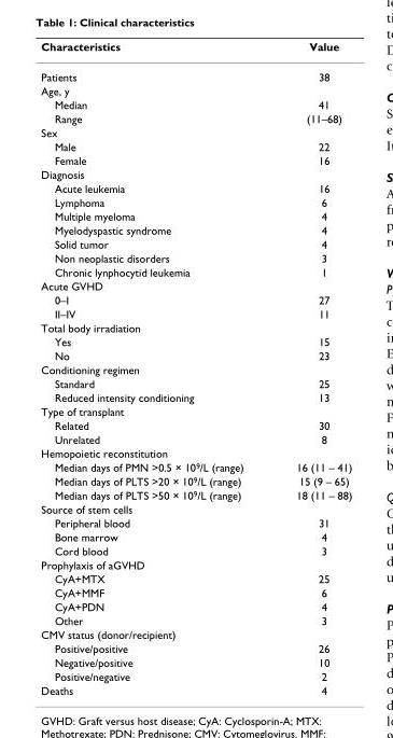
<table><thead><tr><td>Characteristics</td><td>Value</td></tr></thead><tbody><tr><td>Patients</td><td>38</td></tr><tr><td colspan="2">Age, y</td></tr><tr><td>Median</td><td>41</td></tr><tr><td>Range</td><td>(11–68)</td></tr><tr><td colspan="2">Sex</td></tr><tr><td>Male</td><td>22</td></tr><tr><td>Female</td><td>16</td></tr><tr><td colspan="2">Diagnosis</td></tr><tr><td>Acute leukemia</td><td>16</td></tr><tr><td>Lymphoma</td><td>6</td></tr><tr><td>Multiple myeloma</td><td>4</td></tr><tr><td>Myelodyspastic syndrome</td><td>4</td></tr><tr><td>Solid tumor</td><td>4</td></tr><tr><td>Non neoplastic disorders</td><td>3</td></tr><tr><td>Chronic lynphocytid leukemia</td><td>1</td></tr><tr><td colspan="2">Acute GVHD</td></tr><tr><td>0–I</td><td>27</td></tr><tr><td>II–IV</td><td>11</td></tr><tr><td colspan="2">Total body irradiation</td></tr><tr><td>Yes</td><td>15</td></tr><tr><td>No</td><td>23</td></tr><tr><td colspan="2">Conditioning regimen</td></tr><tr><td>Standard</td><td>25</td></tr><tr><td>Reduced intensity conditioning</td><td>13</td></tr><tr><td colspan="2">Type of transplant</td></tr><tr><td>Related</td><td>30</td></tr><tr><td>Unrelated</td><td>8</td></tr><tr><td colspan="2">Hemopoietic reconstitution</td></tr><tr><td>Median days of PMN &gt;0.5 × 10<sup>9</sup>/L (range)</td><td>16 (11 – 41)</td></tr><tr><td>Median days of PLTS &gt;20 × 10<sup>9</sup>/L (range)</td><td>15 (9 – 65)</td></tr><tr><td>Median days of PLTS &gt;50 × 10<sup>9</sup>/L (range)</td><td>18 (11 – 88)</td></tr><tr><td colspan="2">Source of stem cells</td></tr><tr><td>Peripheral blood</td><td>31</td></tr><tr><td>Bone marrow</td><td>4</td></tr><tr><td>Cord blood</td><td>3</td></tr><tr><td colspan="2">Prophylaxis of aGVHD</td></tr><tr><td>CyA+MTX</td><td>25</td></tr><tr><td>CyA+MMF</td><td>6</td></tr><tr><td>CyA+PDN</td><td>4</td></tr><tr><td>Other</td><td>3</td></tr><tr><td colspan="2">CMV status (donor/recipient)</td></tr><tr><td>Positive/positive</td><td>26</td></tr><tr><td>Negative/positive</td><td>10</td></tr><tr><td>Positive/negative</td><td>2</td></tr><tr><td>Deaths</td><td>4</td></tr></tbody></table>